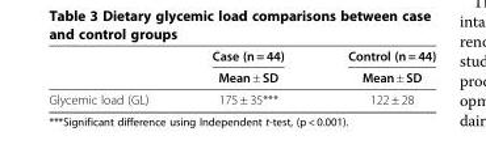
<table><thead><tr><td rowspan="2"></td><td rowspan="2">Case (n = 44) Mean ± SD</td><td rowspan="2">Control (n = 44) Mean ± SD</td></tr><tr></tr></thead><tbody><tr><td>Glycemic load (GL)</td><td>175 ± 35***</td><td>122 ± 28</td></tr></tbody></table>